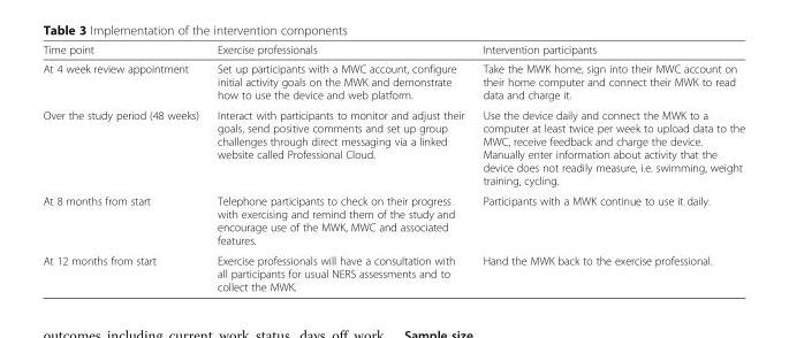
<table><thead><tr><td>Time point</td><td>Exercise professionals</td><td>Intervention participants</td></tr></thead><tbody><tr><td>At 4 week review appointment</td><td>Set up participants with a MWC account, configure initial activity goals on the MWK and demonstrate how to use the device and web platform.</td><td>Take the MWK home, sign into their MWC account on their home computer and connect their MWK to read data and charge it.</td></tr><tr><td>Over the study period (48 weeks)</td><td>Interact with participants to monitor and adjust their goals, send positive comments and set up group challenges through direct messaging via a linked website called Professional Cloud.</td><td>Use the device daily and connect the MWK to a computer at least twice per week to upload data to the MWC, receive feedback and charge the device. Manually enter information about activity that the device does not readily measure, i.e. swimming, weight training, cycling.</td></tr><tr><td>At 8 months from start</td><td>Telephone participants to check on their progress with exercising and remind them of the study and encourage use of the MWK, MWC and associated features.</td><td>Participants with a MWK continue to use it daily.</td></tr><tr><td>At 12 months from start</td><td>Exercise professionals will have a consultation with all participants for usual NERS assessments and to collect the MWK.</td><td>Hand the MWK back to the exercise professional.</td></tr></tbody></table>